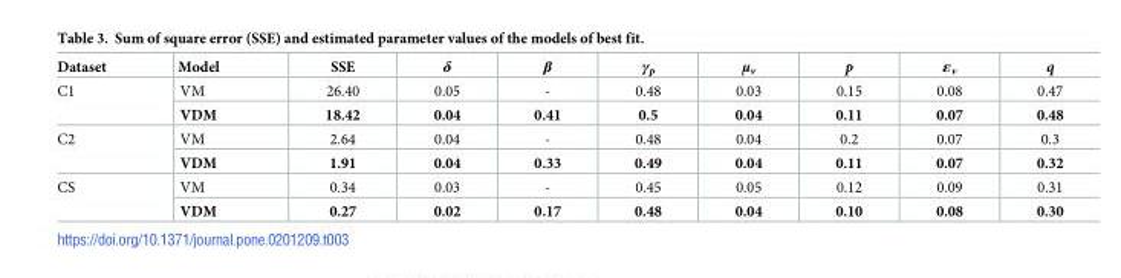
<table><thead><tr><td>Dataset</td><td>Model</td><td>SSE</td><td>δ</td><td>β</td><td>γ<sub>p</sub></td><td>μ<sub>v</sub></td><td>p</td><td>ε<sub>v</sub></td><td>q</td></tr></thead><tbody><tr><td rowspan="2">C1</td><td>VM</td><td>26.40</td><td>0.05</td><td>-</td><td>0.48</td><td>0.03</td><td>0.15</td><td>0.08</td><td>0.47</td></tr><tr><td>VDM</td><td>18.42</td><td>0.04</td><td>0.41</td><td>0.5</td><td>0.04</td><td>0.11</td><td>0.07</td><td>0.48</td></tr><tr><td rowspan="2">C2</td><td>VM</td><td>2.64</td><td>0.04</td><td>-</td><td>0.48</td><td>0.04</td><td>0.2</td><td>0.07</td><td>0.3</td></tr><tr><td>VDM</td><td>1.91</td><td>0.04</td><td>0.33</td><td>0.49</td><td>0.04</td><td>0.11</td><td>0.07</td><td>0.32</td></tr><tr><td rowspan="2">CS</td><td>VM</td><td>0.34</td><td>0.03</td><td>-</td><td>0.45</td><td>0.05</td><td>0.12</td><td>0.09</td><td>0.31</td></tr><tr><td>VDM</td><td>0.27</td><td>0.02</td><td>0.17</td><td>0.48</td><td>0.04</td><td>0.10</td><td>0.08</td><td>0.30</td></tr></tbody></table>